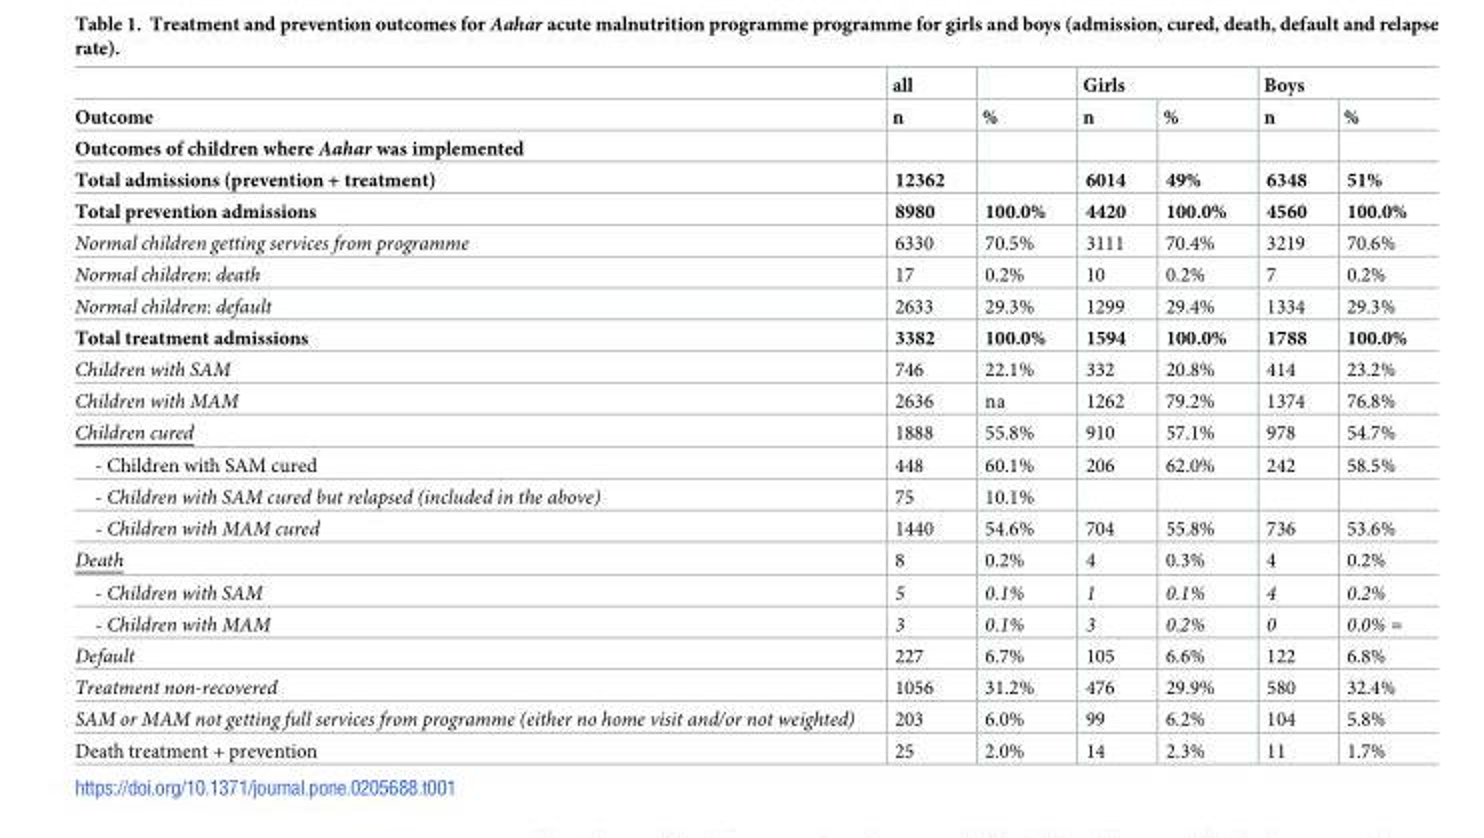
<table><thead><tr><td rowspan="3">Outcome Outcomes of children where Aahar was implemented</td><td rowspan="3">all n</td><td rowspan="3">%</td><td colspan="2">Girls</td><td colspan="2">Boys</td></tr><tr><td rowspan="2">n</td><td rowspan="2">%</td><td rowspan="2">n</td><td rowspan="2">%</td></tr><tr></tr></thead><tbody><tr><td>Total admissions (prevention + treatment)</td><td>12362</td><td></td><td>6014</td><td>49%</td><td>6348</td><td>51%</td></tr><tr><td>Total prevention admissions</td><td>8980</td><td>100.0%</td><td>4420</td><td>100.0%</td><td>4560</td><td>100.0%</td></tr><tr><td>Normal children getting services from programme</td><td>6330</td><td>70.5%</td><td>3111</td><td>70.4%</td><td>3219</td><td>70.6%</td></tr><tr><td>Normal children: death</td><td>17</td><td>0.2%</td><td>10</td><td>0.2%</td><td>7</td><td>0.2%</td></tr><tr><td>Normal children: default</td><td>2633</td><td>29.3%</td><td>1299</td><td>29.4%</td><td>1334</td><td>29.3%</td></tr><tr><td>Total treatment admissions</td><td>3382</td><td>100.0%</td><td>1594</td><td>100.0%</td><td>1788</td><td>100.0%</td></tr><tr><td>Children with SAM</td><td>746</td><td>22.1%</td><td>332</td><td>20.8%</td><td>414</td><td>23.2%</td></tr><tr><td>Children with MAM</td><td>2636</td><td>na</td><td>1262</td><td>79.2%</td><td>1374</td><td>76.8%</td></tr><tr><td>Children cured</td><td>1888</td><td>55.8%</td><td>910</td><td>57.1%</td><td>978</td><td>54.7%</td></tr><tr><td>- Children with SAM cured</td><td>448</td><td>60.1%</td><td>206</td><td>62.0%</td><td>242</td><td>58.5%</td></tr><tr><td>- Children with SAM cured but relapsed (included in the above)</td><td>75</td><td>10.1%</td><td></td><td></td><td></td><td></td></tr><tr><td>- Children with MAM cured</td><td>1440</td><td>54.6%</td><td>704</td><td>55.8%</td><td>736</td><td>53.6%</td></tr><tr><td>Death</td><td>8</td><td>0.2%</td><td>4</td><td>0.3%</td><td>4</td><td>0.2%</td></tr><tr><td>- Children with SAM</td><td>5</td><td>0.1%</td><td>1</td><td>0.1%</td><td>4</td><td>0.2%</td></tr><tr><td>- Children with MAM</td><td>3</td><td>0.1%</td><td>3</td><td>0.2%</td><td>0</td><td>0.0% =</td></tr><tr><td>Default</td><td>227</td><td>6.7%</td><td>105</td><td>6.6%</td><td>122</td><td>6.8%</td></tr><tr><td>Treatment non-recovered</td><td>1056</td><td>31.2%</td><td>476</td><td>29.9%</td><td>580</td><td>32.4%</td></tr><tr><td>SAM or MAM not getting full services from programme (either no home visit and/or not weighted)</td><td>203</td><td>6.0%</td><td>99</td><td>6.2%</td><td>104</td><td>5.8%</td></tr><tr><td>Death treatment + prevention</td><td>25</td><td>2.0%</td><td>14</td><td>2.3%</td><td>11</td><td>1.7%</td></tr></tbody></table>